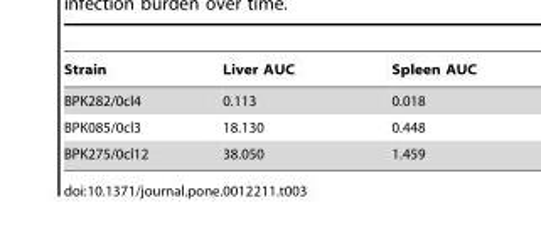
<table><thead><tr><td>Strain</td><td>Liver AUC</td><td>Spleen AUC</td></tr></thead><tbody><tr><td>BPK282/0cl4</td><td>0.113</td><td>0.018</td></tr><tr><td>BPK085/0cl3</td><td>18.130</td><td>0.448</td></tr><tr><td>BPK275/0cl12</td><td>38.050</td><td>1.459</td></tr></tbody></table>